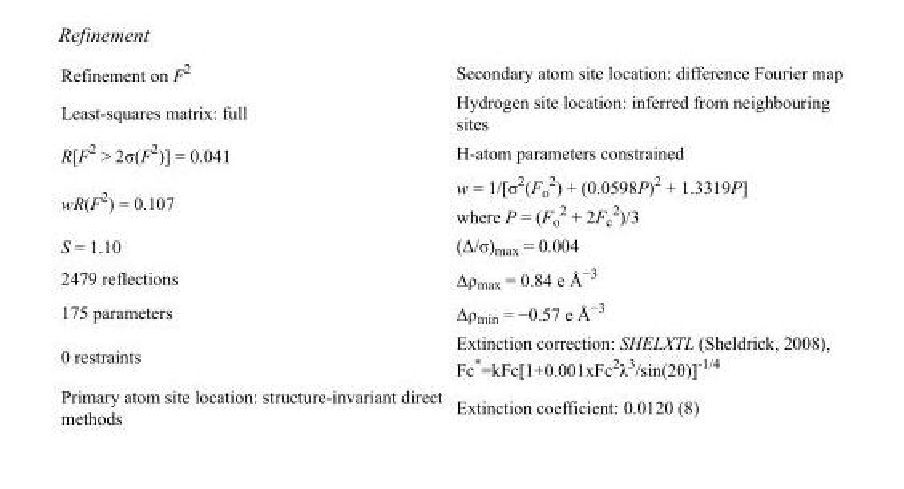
<table><tbody><tr><td>Refinement on F<sup>2</sup></td><td>Secondary atom site location: difference Fourier map</td></tr><tr><td>Least-squares matrix: full</td><td>Hydrogen site location: inferred from neighbouring sites</td></tr><tr><td>R[F<sup>2</sup> &gt; 2σ(F<sup>2</sup>)] = 0.041</td><td>H-atom parameters constrained</td></tr><tr><td>wR(F<sup>2</sup>) = 0.107</td><td>w = 1/[σ<sup>2</sup>(F<sub>o</sub> <sup>2</sup>) + (0.0598P)<sup>2</sup> + 1.3319P] where P = (F<sub>o</sub> <sup>2</sup> + 2F<sub>c</sub> <sup>2</sup>)/3</td></tr><tr><td>S = 1.10</td><td>(Δ/σ)<sub>max</sub> = 0.004</td></tr><tr><td>2479 reflections</td><td>Δρ<sub>max</sub> = 0.84 e Å<sup>−3</sup></td></tr><tr><td>175 parameters</td><td>Δρ<sub>min</sub> = −0.57 e Å<sup>−3</sup></td></tr><tr><td>0 restraints</td><td>Extinction correction: SHELXTL (Sheldrick, 2008), Fc*=kFc[1+0.001xFc<sup>2</sup>λ<sup>3</sup>/sin(2θ)]<sup>-1/4</sup></td></tr><tr><td>Primary atom site location: structure-invariant direct methods</td><td>Extinction coefficient: 0.0120 (8)</td></tr></tbody></table>